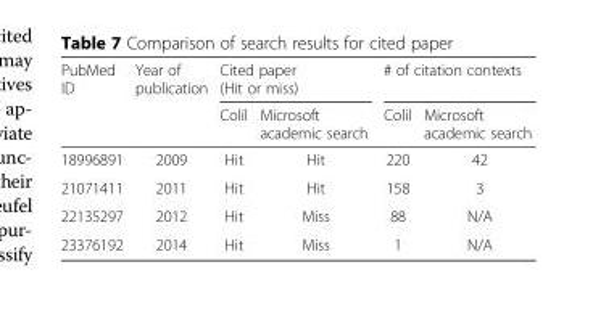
<table><thead><tr><td rowspan="2">PubMed ID</td><td rowspan="2">Year of publication</td><td colspan="2">Cited paper (Hit or miss)</td><td colspan="2"># of citation contexts</td></tr><tr><td>Colil</td><td>Microsoft academic search</td><td>Colil</td><td>Microsoft academic search</td></tr></thead><tbody><tr><td>18996891</td><td>2009</td><td>Hit</td><td>Hit</td><td>220</td><td>42</td></tr><tr><td>21071411</td><td>2011</td><td>Hit</td><td>Hit</td><td>158</td><td>3</td></tr><tr><td>22135297</td><td>2012</td><td>Hit</td><td>Miss</td><td>88</td><td>N/A</td></tr><tr><td>23376192</td><td>2014</td><td>Hit</td><td>Miss</td><td>1</td><td>N/A</td></tr></tbody></table>